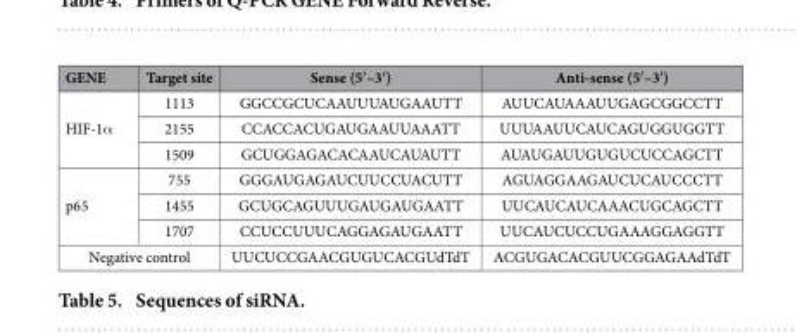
<table><thead><tr><td>GENE</td><td>Target site</td><td>Sense (5′–3′)</td><td>Anti-sense (5′–3′)</td></tr></thead><tbody><tr><td rowspan="3">HIF-1α</td><td>1113</td><td>GGCCGCUCAAUUUAUGAAUTT</td><td>AUUCAUAAAUUGAGCGGCCTT</td></tr><tr><td>2155</td><td>CCACCACUGAUGAAUUAAATT</td><td>UUUAAUUCAUCAGUGGUGGTT</td></tr><tr><td>1509</td><td>GCUGGAGACACAAUCAUAUTT</td><td>AUAUGAUUGUGUCUCCAGCTT</td></tr><tr><td rowspan="3">p65</td><td>755</td><td>GGGAUGAGAUCUUCCUACUTT</td><td>AGUAGGAAGAUCUCAUCCCTT</td></tr><tr><td>1455</td><td>GCUGCAGUUUGAUGAUGAATT</td><td>UUCAUCAUCAAACUGCAGCTT</td></tr><tr><td>1707</td><td>CCUCCUUUCAGGAGAUGAATT</td><td>UUCAUCUCCUGAAAGGAGGTT</td></tr><tr><td colspan="2">Negative control</td><td>UUCUCCGAACGUGUCACGUdTdT</td><td>ACGUGACACGUUCGGAGAAdTdT</td></tr></tbody></table>